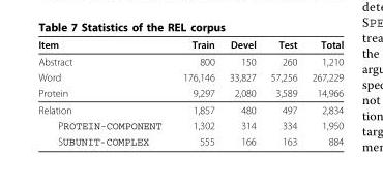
<table><thead><tr><td>Item</td><td>Train</td><td>Devel</td><td>Test</td><td>Total</td></tr></thead><tbody><tr><td>Abstract</td><td>800</td><td>150</td><td>260</td><td>1,210</td></tr><tr><td>Word</td><td>176,146</td><td>33,827</td><td>57,256</td><td>267,229</td></tr><tr><td>Protein</td><td>9,297</td><td>2,080</td><td>3,589</td><td>14,966</td></tr><tr><td>Relation</td><td>1,857</td><td>480</td><td>497</td><td>2,834</td></tr><tr><td>PROTEIN-COMPONENT</td><td>1,302</td><td>314</td><td>334</td><td>1,950</td></tr><tr><td>SUBUNIT-COMPLEX</td><td>555</td><td>166</td><td>163</td><td>884</td></tr></tbody></table>